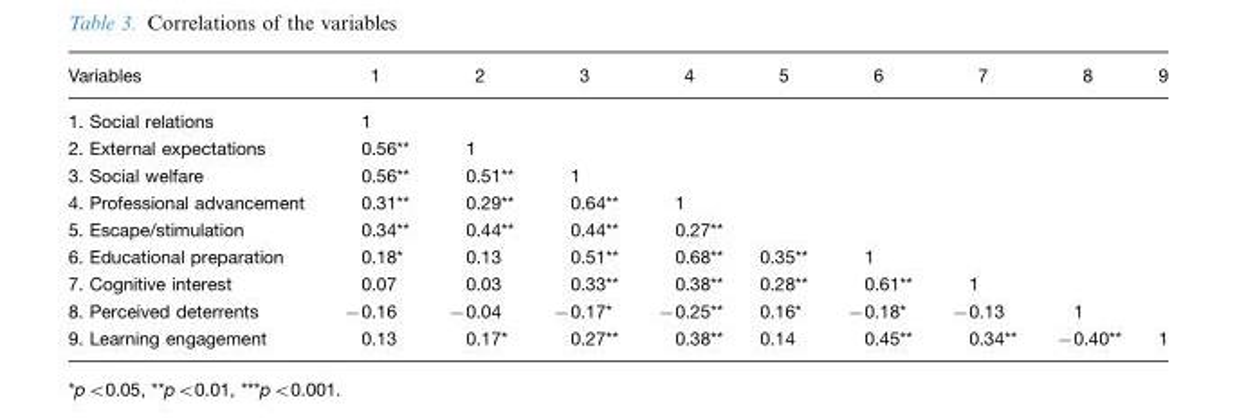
<table><thead><tr><td>Variables</td><td>1</td><td>2</td><td>3</td><td>4</td><td>5</td><td>6</td><td>7</td><td>8</td><td>9</td></tr></thead><tbody><tr><td>1. Social relations</td><td>1</td><td></td><td></td><td></td><td></td><td></td><td></td><td></td><td></td></tr><tr><td>2. External expectations</td><td>0.56**</td><td>1</td><td></td><td></td><td></td><td></td><td></td><td></td><td></td></tr><tr><td>3. Social welfare</td><td>0.56**</td><td>0.51**</td><td>1</td><td></td><td></td><td></td><td></td><td></td><td></td></tr><tr><td>4. Professional advancement</td><td>0.31**</td><td>0.29**</td><td>0.64**</td><td>1</td><td></td><td></td><td></td><td></td><td></td></tr><tr><td>5. Escape/stimulation</td><td>0.34**</td><td>0.44**</td><td>0.44**</td><td>0.27**</td><td></td><td></td><td></td><td></td><td></td></tr><tr><td>6. Educational preparation</td><td>0.18*</td><td>0.13</td><td>0.51**</td><td>0.68**</td><td>0.35**</td><td>1</td><td></td><td></td><td></td></tr><tr><td>7. Cognitive interest</td><td>0.07</td><td>0.03</td><td>0.33**</td><td>0.38**</td><td>0.28**</td><td>0.61**</td><td>1</td><td></td><td></td></tr><tr><td>8. Perceived deterrents</td><td>−0.16</td><td>−0.04</td><td>−0.17*</td><td>−0.25**</td><td>0.16*</td><td>−0.18*</td><td>−0.13</td><td>1</td><td></td></tr><tr><td>9. Learning engagement</td><td>0.13</td><td>0.17*</td><td>0.27**</td><td>0.38**</td><td>0.14</td><td>0.45**</td><td>0.34**</td><td>−0.40**</td><td>1</td></tr></tbody></table>